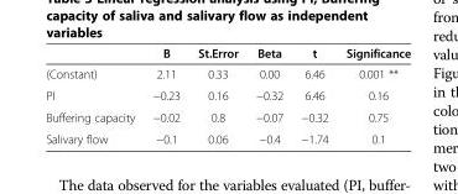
<table><thead><tr><td></td><td>B</td><td>St.Error</td><td>Beta</td><td>t</td><td>Significance</td></tr></thead><tbody><tr><td>(Constant)</td><td>2.11</td><td>0.33</td><td>0.00</td><td>6.46</td><td>0.001 **</td></tr><tr><td>PI</td><td>−0.23</td><td>0.16</td><td>−0.32</td><td>6.46</td><td>0.16</td></tr><tr><td>Buffering capacity</td><td>−0.02</td><td>0.8</td><td>−0.07</td><td>−0.32</td><td>0.75</td></tr><tr><td>Salivary flow</td><td>−0.1</td><td>0.06</td><td>−0.4</td><td>−1.74</td><td>0.1</td></tr></tbody></table>